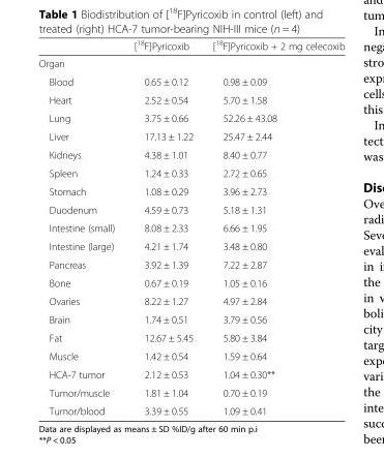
<table><thead><tr><td></td><td>[<sup>18</sup>F]Pyricoxib</td><td>[<sup>18</sup>F]Pyricoxib + 2 mg celecoxib</td></tr></thead><tbody><tr><td colspan="3">Organ</td></tr><tr><td>Blood</td><td>0.65 ± 0.12</td><td>0.98 ± 0.09</td></tr><tr><td>Heart</td><td>2.52 ± 0.54</td><td>5.70 ± 1.58</td></tr><tr><td>Lung</td><td>3.75 ± 0.66</td><td>52.26 ± 43.08</td></tr><tr><td>Liver</td><td>17.13 ± 1.22</td><td>25.47 ± 2.44</td></tr><tr><td>Kidneys</td><td>4.38 ± 1.01</td><td>8.40 ± 0.77</td></tr><tr><td>Spleen</td><td>1.24 ± 0.33</td><td>2.72 ± 0.65</td></tr><tr><td>Stomach</td><td>1.08 ± 0.29</td><td>3.96 ± 2.73</td></tr><tr><td>Duodenum</td><td>4.59 ± 0.73</td><td>5.18 ± 1.31</td></tr><tr><td>Intestine (small)</td><td>8.08 ± 2.33</td><td>6.66 ± 1.95</td></tr><tr><td>Intestine (large)</td><td>4.21 ± 1.74</td><td>3.48 ± 0.80</td></tr><tr><td>Pancreas</td><td>3.92 ± 1.39</td><td>7.22 ± 2.87</td></tr><tr><td>Bone</td><td>0.67 ± 0.19</td><td>1.05 ± 0.16</td></tr><tr><td>Ovaries</td><td>8.22 ± 1.27</td><td>4.97 ± 2.84</td></tr><tr><td>Brain</td><td>1.74 ± 0.51</td><td>3.79 ± 0.56</td></tr><tr><td>Fat</td><td>12.67 ± 5.45</td><td>5.80 ± 3.84</td></tr><tr><td>Muscle</td><td>1.42 ± 0.54</td><td>1.59 ± 0.64</td></tr><tr><td>HCA-7 tumor</td><td>2.12 ± 0.53</td><td>1.04 ± 0.30**</td></tr><tr><td>Tumor/muscle</td><td>1.81 ± 1.04</td><td>0.70 ± 0.19</td></tr><tr><td>Tumor/blood</td><td>3.39 ± 0.55</td><td>1.09 ± 0.41</td></tr></tbody></table>